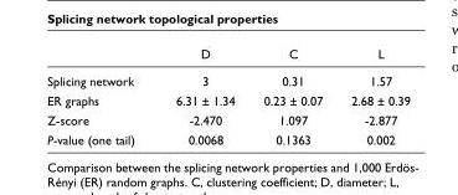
<table><thead><tr><td></td><td>D</td><td>C</td><td>L</td></tr></thead><tbody><tr><td>Splicing network</td><td>3</td><td>0.31</td><td>1.57</td></tr><tr><td>ER graphs</td><td>6.31 ± 1.34</td><td>0.23 ± 0.07</td><td>2.68 ± 0.39</td></tr><tr><td>Z-score</td><td>-2.470</td><td>1.097</td><td>-2.877</td></tr><tr><td>P-value (one tail)</td><td>0.0068</td><td>0.1363</td><td>0.002</td></tr></tbody></table>